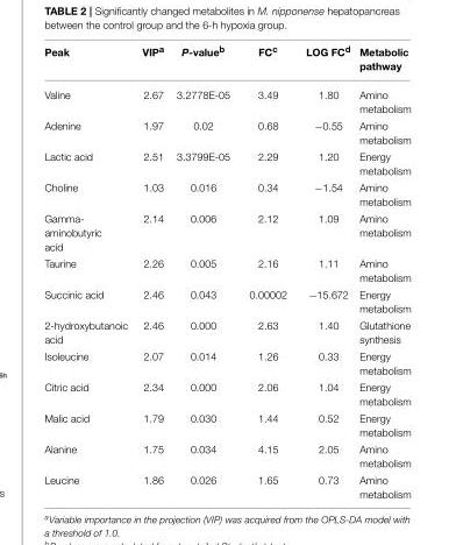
<table><thead><tr><td>Peak</td><td>VIP<sup>a</sup></td><td>P-value<sup>b</sup></td><td>FC<sup>c</sup></td><td>LOG FC<sup>d</sup></td><td>Metabolic pathway</td></tr></thead><tbody><tr><td>Valine</td><td>2.67</td><td>3.2778E-05</td><td>3.49</td><td>1.80</td><td>Amino metabolism</td></tr><tr><td>Adenine</td><td>1.97</td><td>0.02</td><td>0.68</td><td>−0.55</td><td>Amino metabolism</td></tr><tr><td>Lactic acid</td><td>2.51</td><td>3.3799E-05</td><td>2.29</td><td>1.20</td><td>Energy metabolism</td></tr><tr><td>Choline</td><td>1.03</td><td>0.016</td><td>0.34</td><td>−1.54</td><td>Amino metabolism</td></tr><tr><td>Gamma- aminobutyric acid</td><td>2.14</td><td>0.006</td><td>2.12</td><td>1.09</td><td>Amino metabolism</td></tr><tr><td>Taurine</td><td>2.26</td><td>0.005</td><td>2.16</td><td>1.11</td><td>Amino metabolism</td></tr><tr><td>Succinic acid</td><td>2.46</td><td>0.043</td><td>0.00002</td><td>−15.672</td><td>Energy metabolism</td></tr><tr><td>2-hydroxybutanoic acid</td><td>2.46</td><td>0.000</td><td>2.63</td><td>1.40</td><td>Glutathione synthesis</td></tr><tr><td>Isoleucine</td><td>2.07</td><td>0.014</td><td>1.26</td><td>0.33</td><td>Energy metabolism</td></tr><tr><td>Citric acid</td><td>2.34</td><td>0.000</td><td>2.06</td><td>1.04</td><td>Energy metabolism</td></tr><tr><td>Malic acid</td><td>1.79</td><td>0.030</td><td>1.44</td><td>0.52</td><td>Energy metabolism</td></tr><tr><td>Alanine</td><td>1.75</td><td>0.034</td><td>4.15</td><td>2.05</td><td>Amino metabolism</td></tr><tr><td>Leucine</td><td>1.86</td><td>0.026</td><td>1.65</td><td>0.73</td><td>Amino metabolism</td></tr></tbody></table>